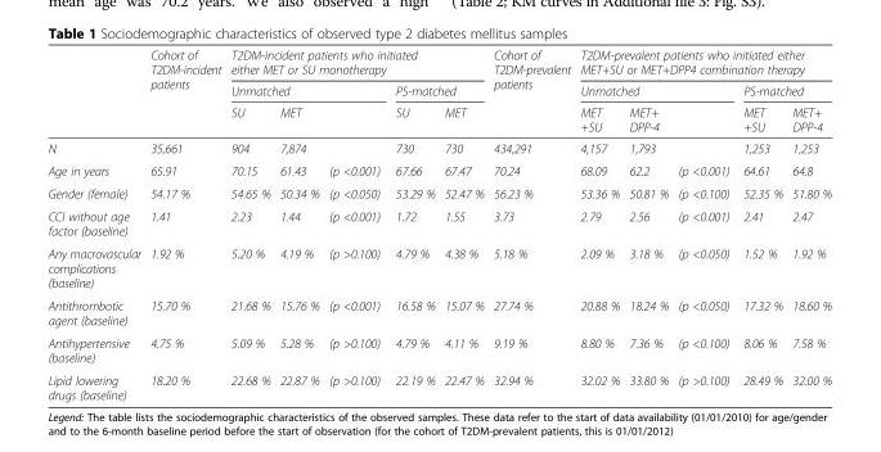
<table><thead><tr><td rowspan="3"></td><td rowspan="3">Cohort of T2DM-incident patients</td><td colspan="5">T2DM-incident patients who initiated either MET or SU monotherapy</td><td rowspan="3">Cohort of T2DM-prevalent patients</td><td colspan="5">T2DM-prevalent patients who initiated either MET+SU or MET+DPP4 combination therapy</td></tr><tr><td colspan="3">Unmatched</td><td colspan="2">PS-matched</td><td colspan="3">Unmatched</td><td colspan="2">PS-matched</td></tr><tr><td>SU</td><td>MET</td><td></td><td>SU</td><td>MET</td><td>MET +SU</td><td>MET+ DPP-4</td><td></td><td>MET +SU</td><td>MET+ DPP-4</td></tr></thead><tbody><tr><td>N</td><td>35,661</td><td>904</td><td>7,874</td><td></td><td>730</td><td>730</td><td>434,291</td><td>4,157</td><td>1,793</td><td></td><td>1,253</td><td>1,253</td></tr><tr><td>Age in years</td><td>65.91</td><td>70.15</td><td>61.43</td><td>(p &lt;0.001)</td><td>67.66</td><td>67.47</td><td>70.24</td><td>68.09</td><td>62.2</td><td>(p &lt;0.001)</td><td>64.61</td><td>64.8</td></tr><tr><td>Gender (female)</td><td>54.17 %</td><td>54.65 %</td><td>50.34 %</td><td>(p &lt;0.050)</td><td>53.29 %</td><td>52.47 %</td><td>56.23 %</td><td>53.36 %</td><td>50.81 %</td><td>(p &lt;0.100)</td><td>52.35 %</td><td>51.80 %</td></tr><tr><td>CCI without age factor (baseline)</td><td>1.41</td><td>2.23</td><td>1.44</td><td>(p &lt;0.001)</td><td>1.72</td><td>1.55</td><td>3.73</td><td>2.79</td><td>2.56</td><td>(p &lt;0.001)</td><td>2.41</td><td>2.47</td></tr><tr><td>Any macrovascular complications (baseline)</td><td>1.92 %</td><td>5.20 %</td><td>4.19 %</td><td>(p &gt;0.100)</td><td>4.79 %</td><td>4.38 %</td><td>5.18 %</td><td>2.09 %</td><td>3.18 %</td><td>(p &lt;0.050)</td><td>1.52 %</td><td>1.92 %</td></tr><tr><td>Antithrombotic agent (baseline)</td><td>15.70 %</td><td>21.68 %</td><td>15.76 %</td><td>(p &lt;0.001)</td><td>16.58 %</td><td>15.07 %</td><td>27.74 %</td><td>20.88 %</td><td>18.24 %</td><td>(p &lt;0.050)</td><td>17.32 %</td><td>18.60 %</td></tr><tr><td>Antihypertensive (baseline)</td><td>4.75 %</td><td>5.09 %</td><td>5.28 %</td><td>(p &gt;0.100)</td><td>4.79 %</td><td>4.11 %</td><td>9.19 %</td><td>8.80 %</td><td>7.36 %</td><td>(p &lt;0.100)</td><td>8.06 %</td><td>7.58 %</td></tr><tr><td>Lipid lowering drugs (baseline)</td><td>18.20 %</td><td>22.68 %</td><td>22.87 %</td><td>(p &gt;0.100)</td><td>22.19 %</td><td>22.47 %</td><td>32.94 %</td><td>32.02 %</td><td>33.80 %</td><td>(p &gt;0.100)</td><td>28.49 %</td><td>32.00 %</td></tr></tbody></table>